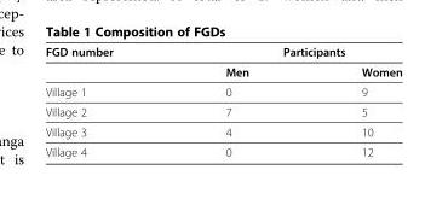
<table><thead><tr><td rowspan="2">FGD number</td><td colspan="2">Participants</td></tr><tr><td>Men</td><td>Women</td></tr></thead><tbody><tr><td>Village 1</td><td>0</td><td>9</td></tr><tr><td>Village 2</td><td>7</td><td>5</td></tr><tr><td>Village 3</td><td>4</td><td>10</td></tr><tr><td>Village 4</td><td>0</td><td>12</td></tr></tbody></table>